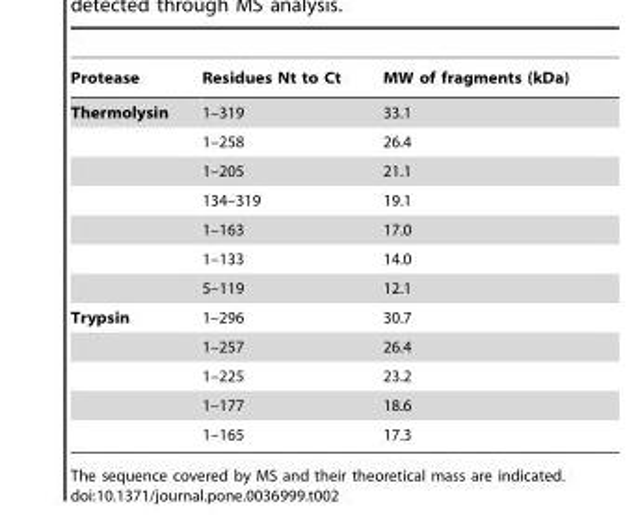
<table><thead><tr><td>Protease</td><td>Residues Nt to Ct</td><td>MW of fragments (kDa)</td></tr></thead><tbody><tr><td rowspan="7">Thermolysin</td><td>1–319</td><td>33.1</td></tr><tr><td>1–258</td><td>26.4</td></tr><tr><td>1–205</td><td>21.1</td></tr><tr><td>134–319</td><td>19.1</td></tr><tr><td>1–163</td><td>17.0</td></tr><tr><td>1–133</td><td>14.0</td></tr><tr><td>5–119</td><td>12.1</td></tr><tr><td rowspan="5">Trypsin</td><td>1–296</td><td>30.7</td></tr><tr><td>1–257</td><td>26.4</td></tr><tr><td>1–225</td><td>23.2</td></tr><tr><td>1–177</td><td>18.6</td></tr><tr><td>1–165</td><td>17.3</td></tr></tbody></table>